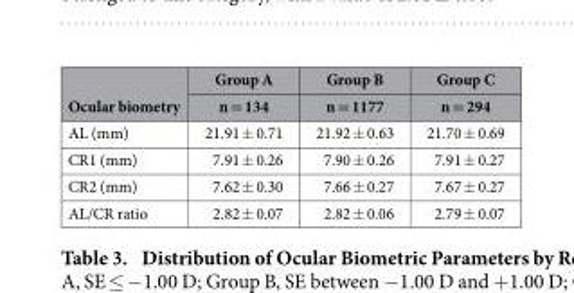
<table><thead><tr><td rowspan="2">Ocular biometry</td><td rowspan="2">Group A n = 134</td><td rowspan="2">Group B n = 1177</td><td rowspan="2">Group C n = 294</td></tr><tr></tr></thead><tbody><tr><td>AL (mm)</td><td>21.91 ± 0.71</td><td>21.92 ± 0.63</td><td>21.70 ± 0.69</td></tr><tr><td>CR1 (mm)</td><td>7.91 ± 0.26</td><td>7.90 ± 0.26</td><td>7.91 ± 0.27</td></tr><tr><td>CR2 (mm)</td><td>7.62 ± 0.30</td><td>7.66 ± 0.27</td><td>7.67 ± 0.27</td></tr><tr><td>AL/CR ratio</td><td>2.82 ± 0.07</td><td>2.82 ± 0.06</td><td>2.79 ± 0.07</td></tr></tbody></table>